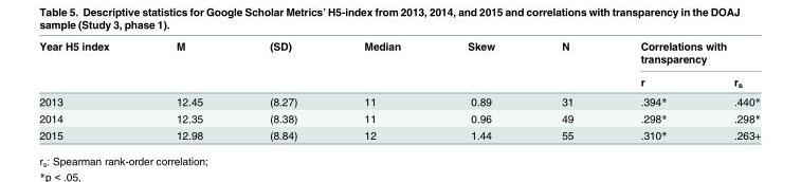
<table><thead><tr><td rowspan="2">Year H5 index</td><td rowspan="2">M</td><td rowspan="2">(SD)</td><td rowspan="2">Median</td><td rowspan="2">Skew</td><td rowspan="2">N</td><td colspan="2">Correlations with transparency</td></tr><tr><td>r</td><td>r<sub>s</sub></td></tr></thead><tbody><tr><td>2013</td><td>12.45</td><td>(8.27)</td><td>11</td><td>0.89</td><td>31</td><td>.394*</td><td>.440*</td></tr><tr><td>2014</td><td>12.35</td><td>(8.38)</td><td>11</td><td>0.96</td><td>49</td><td>.298*</td><td>.298*</td></tr><tr><td>2015</td><td>12.98</td><td>(8.84)</td><td>12</td><td>1.44</td><td>55</td><td>.310*</td><td>.263+</td></tr></tbody></table>